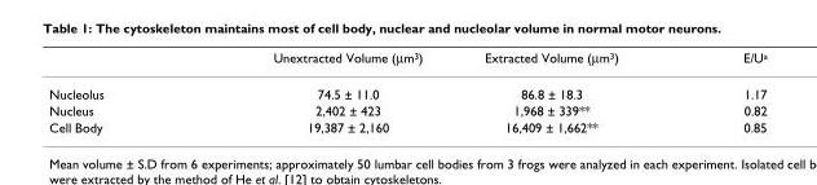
<table><thead><tr><td></td><td>Unextracted Volume (µm3)</td><td>Extracted Volume (µm3)</td><td>E/Ua</td></tr></thead><tbody><tr><td>Nucleolus</td><td>74.5 ± 11.0</td><td>86.8 ± 18.3</td><td>1.17</td></tr><tr><td>Nucleus</td><td>2,402 ± 423</td><td>1,968 ± 339**</td><td>0.82</td></tr><tr><td>Cell Body</td><td>19,387 ± 2,160</td><td>16,409 ± 1,662**</td><td>0.85</td></tr></tbody></table>